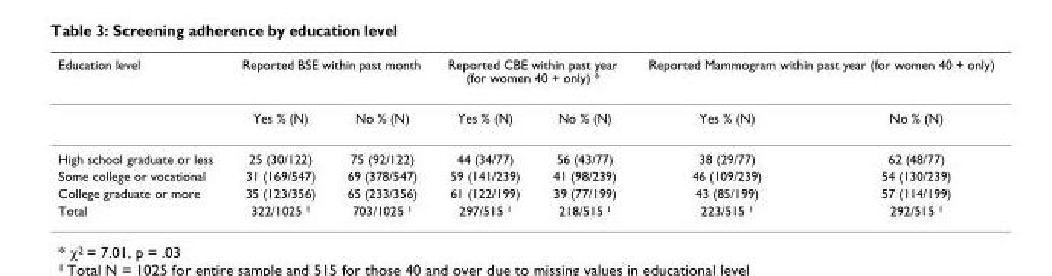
<table><thead><tr><td rowspan="2">Education level</td><td colspan="2">Reported BSE within past month</td><td colspan="2">Reported CBE within past year (for women 40 + only) *</td><td colspan="2">Reported Mammogram within past year (for women 40 + only)</td></tr><tr><td>Yes % (N)</td><td>No % (N)</td><td>Yes % (N)</td><td>No % (N)</td><td>Yes % (N)</td><td>No % (N)</td></tr></thead><tbody><tr><td>High school graduate or less</td><td>25 (30/122)</td><td>75 (92/122)</td><td>44 (34/77)</td><td>56 (43/77)</td><td>38 (29/77)</td><td>62 (48/77)</td></tr><tr><td>Some college or vocational</td><td>31 (169/547)</td><td>69 (378/547)</td><td>59 (141/239)</td><td>41 (98/239)</td><td>46 (109/239)</td><td>54 (130/239)</td></tr><tr><td>College graduate or more</td><td>35 (123/356)</td><td>65 (233/356)</td><td>61 (122/199)</td><td>39 (77/199)</td><td>43 (85/199)</td><td>57 (114/199)</td></tr><tr><td>Total</td><td>322/1025 <sup>1</sup></td><td>703/1025 <sup>1</sup></td><td>297/515 <sup>1</sup></td><td>218/515 <sup>1</sup></td><td>223/515 <sup>1</sup></td><td>292/515 <sup>1</sup></td></tr></tbody></table>